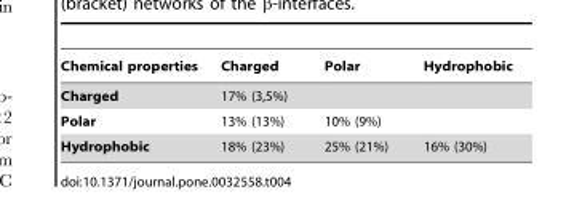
<table><thead><tr><td>Chemical properties</td><td>Charged</td><td>Polar</td><td>Hydrophobic</td></tr></thead><tbody><tr><td>Charged</td><td>17% (3,5%)</td><td></td><td></td></tr><tr><td>Polar</td><td>13% (13%)</td><td>10% (9%)</td><td></td></tr><tr><td>Hydrophobic</td><td>18% (23%)</td><td>25% (21%)</td><td>16% (30%)</td></tr></tbody></table>